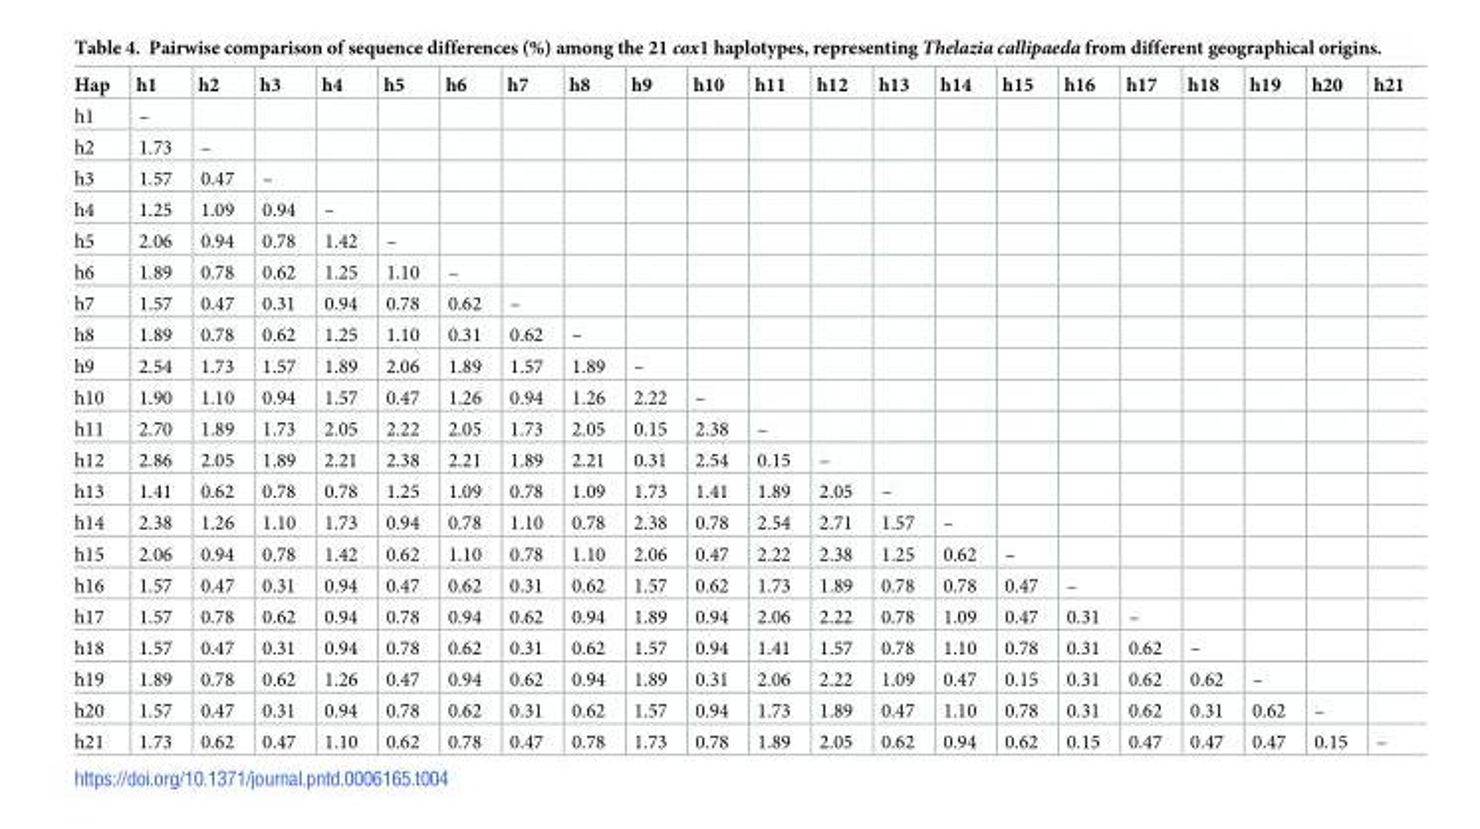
<table><thead><tr><td>Hap</td><td>h1</td><td>h2</td><td>h3</td><td>h4</td><td>h5</td><td>h6</td><td>h7</td><td>h8</td><td>h9</td><td>h10</td><td>h11</td><td>h12</td><td>h13</td><td>h14</td><td>h15</td><td>h16</td><td>h17</td><td>h18</td><td>h19</td><td>h20</td><td>h21</td></tr></thead><tbody><tr><td>h1</td><td>–</td><td></td><td></td><td></td><td></td><td></td><td></td><td></td><td></td><td></td><td></td><td></td><td></td><td></td><td></td><td></td><td></td><td></td><td></td><td></td><td></td></tr><tr><td>h2</td><td>1.73</td><td>–</td><td></td><td></td><td></td><td></td><td></td><td></td><td></td><td></td><td></td><td></td><td></td><td></td><td></td><td></td><td></td><td></td><td></td><td></td><td></td></tr><tr><td>h3</td><td>1.57</td><td>0.47</td><td>–</td><td></td><td></td><td></td><td></td><td></td><td></td><td></td><td></td><td></td><td></td><td></td><td></td><td></td><td></td><td></td><td></td><td></td><td></td></tr><tr><td>h4</td><td>1.25</td><td>1.09</td><td>0.94</td><td>–</td><td></td><td></td><td></td><td></td><td></td><td></td><td></td><td></td><td></td><td></td><td></td><td></td><td></td><td></td><td></td><td></td><td></td></tr><tr><td>h5</td><td>2.06</td><td>0.94</td><td>0.78</td><td>1.42</td><td>–</td><td></td><td></td><td></td><td></td><td></td><td></td><td></td><td></td><td></td><td></td><td></td><td></td><td></td><td></td><td></td><td></td></tr><tr><td>h6</td><td>1.89</td><td>0.78</td><td>0.62</td><td>1.25</td><td>1.10</td><td>–</td><td></td><td></td><td></td><td></td><td></td><td></td><td></td><td></td><td></td><td></td><td></td><td></td><td></td><td></td><td></td></tr><tr><td>h7</td><td>1.57</td><td>0.47</td><td>0.31</td><td>0.94</td><td>0.78</td><td>0.62</td><td>–</td><td></td><td></td><td></td><td></td><td></td><td></td><td></td><td></td><td></td><td></td><td></td><td></td><td></td><td></td></tr><tr><td>h8</td><td>1.89</td><td>0.78</td><td>0.62</td><td>1.25</td><td>1.10</td><td>0.31</td><td>0.62</td><td>–</td><td></td><td></td><td></td><td></td><td></td><td></td><td></td><td></td><td></td><td></td><td></td><td></td><td></td></tr><tr><td>h9</td><td>2.54</td><td>1.73</td><td>1.57</td><td>1.89</td><td>2.06</td><td>1.89</td><td>1.57</td><td>1.89</td><td>–</td><td></td><td></td><td></td><td></td><td></td><td></td><td></td><td></td><td></td><td></td><td></td><td></td></tr><tr><td>h10</td><td>1.90</td><td>1.10</td><td>0.94</td><td>1.57</td><td>0.47</td><td>1.26</td><td>0.94</td><td>1.26</td><td>2.22</td><td>–</td><td></td><td></td><td></td><td></td><td></td><td></td><td></td><td></td><td></td><td></td><td></td></tr><tr><td>h11</td><td>2.70</td><td>1.89</td><td>1.73</td><td>2.05</td><td>2.22</td><td>2.05</td><td>1.73</td><td>2.05</td><td>0.15</td><td>2.38</td><td>–</td><td></td><td></td><td></td><td></td><td></td><td></td><td></td><td></td><td></td><td></td></tr><tr><td>h12</td><td>2.86</td><td>2.05</td><td>1.89</td><td>2.21</td><td>2.38</td><td>2.21</td><td>1.89</td><td>2.21</td><td>0.31</td><td>2.54</td><td>0.15</td><td>–</td><td></td><td></td><td></td><td></td><td></td><td></td><td></td><td></td><td></td></tr><tr><td>h13</td><td>1.41</td><td>0.62</td><td>0.78</td><td>0.78</td><td>1.25</td><td>1.09</td><td>0.78</td><td>1.09</td><td>1.73</td><td>1.41</td><td>1.89</td><td>2.05</td><td>–</td><td></td><td></td><td></td><td></td><td></td><td></td><td></td><td></td></tr><tr><td>h14</td><td>2.38</td><td>1.26</td><td>1.10</td><td>1.73</td><td>0.94</td><td>0.78</td><td>1.10</td><td>0.78</td><td>2.38</td><td>0.78</td><td>2.54</td><td>2.71</td><td>1.57</td><td>–</td><td></td><td></td><td></td><td></td><td></td><td></td><td></td></tr><tr><td>h15</td><td>2.06</td><td>0.94</td><td>0.78</td><td>1.42</td><td>0.62</td><td>1.10</td><td>0.78</td><td>1.10</td><td>2.06</td><td>0.47</td><td>2.22</td><td>2.38</td><td>1.25</td><td>0.62</td><td>–</td><td></td><td></td><td></td><td></td><td></td><td></td></tr><tr><td>h16</td><td>1.57</td><td>0.47</td><td>0.31</td><td>0.94</td><td>0.47</td><td>0.62</td><td>0.31</td><td>0.62</td><td>1.57</td><td>0.62</td><td>1.73</td><td>1.89</td><td>0.78</td><td>0.78</td><td>0.47</td><td>–</td><td></td><td></td><td></td><td></td><td></td></tr><tr><td>h17</td><td>1.57</td><td>0.78</td><td>0.62</td><td>0.94</td><td>0.78</td><td>0.94</td><td>0.62</td><td>0.94</td><td>1.89</td><td>0.94</td><td>2.06</td><td>2.22</td><td>0.78</td><td>1.09</td><td>0.47</td><td>0.31</td><td>–</td><td></td><td></td><td></td><td></td></tr><tr><td>h18</td><td>1.57</td><td>0.47</td><td>0.31</td><td>0.94</td><td>0.78</td><td>0.62</td><td>0.31</td><td>0.62</td><td>1.57</td><td>0.94</td><td>1.41</td><td>1.57</td><td>0.78</td><td>1.10</td><td>0.78</td><td>0.31</td><td>0.62</td><td>–</td><td></td><td></td><td></td></tr><tr><td>h19</td><td>1.89</td><td>0.78</td><td>0.62</td><td>1.26</td><td>0.47</td><td>0.94</td><td>0.62</td><td>0.94</td><td>1.89</td><td>0.31</td><td>2.06</td><td>2.22</td><td>1.09</td><td>0.47</td><td>0.15</td><td>0.31</td><td>0.62</td><td>0.62</td><td>–</td><td></td><td></td></tr><tr><td>h20</td><td>1.57</td><td>0.47</td><td>0.31</td><td>0.94</td><td>0.78</td><td>0.62</td><td>0.31</td><td>0.62</td><td>1.57</td><td>0.94</td><td>1.73</td><td>1.89</td><td>0.47</td><td>1.10</td><td>0.78</td><td>0.31</td><td>0.62</td><td>0.31</td><td>0.62</td><td>–</td><td></td></tr><tr><td>h21</td><td>1.73</td><td>0.62</td><td>0.47</td><td>1.10</td><td>0.62</td><td>0.78</td><td>0.47</td><td>0.78</td><td>1.73</td><td>0.78</td><td>1.89</td><td>2.05</td><td>0.62</td><td>0.94</td><td>0.62</td><td>0.15</td><td>0.47</td><td>0.47</td><td>0.47</td><td>0.15</td><td>–</td></tr></tbody></table>